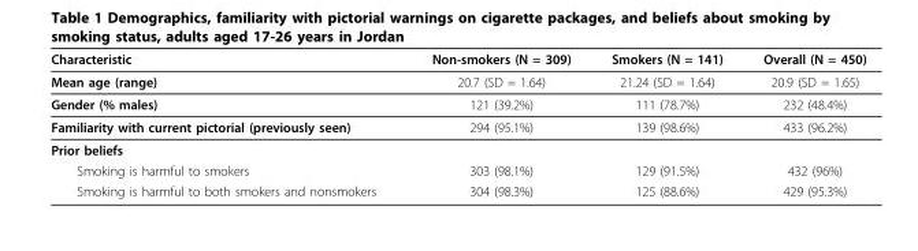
<table><thead><tr><td>Characteristic</td><td>Non-smokers (N = 309)</td><td>Smokers (N = 141)</td><td>Overall (N = 450)</td></tr></thead><tbody><tr><td>Mean age (range)</td><td>20.7 (SD = 1.64)</td><td>21.24 (SD = 1.64)</td><td>20.9 (SD = 1.65)</td></tr><tr><td>Gender (% males)</td><td>121 (39.2%)</td><td>111 (78.7%)</td><td>232 (48.4%)</td></tr><tr><td>Familiarity with current pictorial (previously seen)</td><td>294 (95.1%)</td><td>139 (98.6%)</td><td>433 (96.2%)</td></tr><tr><td colspan="4">Prior beliefs</td></tr><tr><td>Smoking is harmful to smokers</td><td>303 (98.1%)</td><td>129 (91.5%)</td><td>432 (96%)</td></tr><tr><td>Smoking is harmful to both smokers and nonsmokers</td><td>304 (98.3%)</td><td>125 (88.6%)</td><td>429 (95.3%)</td></tr></tbody></table>